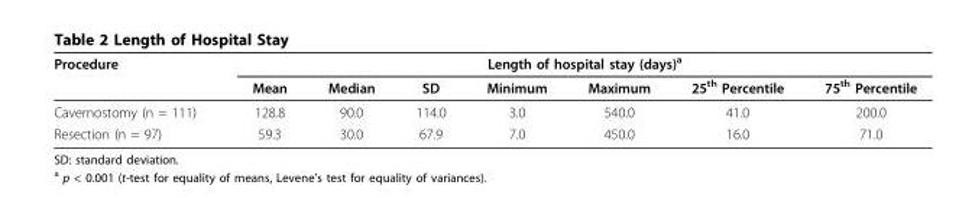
<table><thead><tr><td rowspan="2">Procedure</td><td colspan="7">Length of hospital stay (days)<sup>a</sup></td></tr><tr><td>Mean</td><td>Median</td><td>SD</td><td>Minimum</td><td>Maximum</td><td>25<sup>th</sup> Percentile</td><td>75<sup>th</sup> Percentile</td></tr></thead><tbody><tr><td>Cavernostomy (n = 111)</td><td>128.8</td><td>90.0</td><td>114.0</td><td>3.0</td><td>540.0</td><td>41.0</td><td>200.0</td></tr><tr><td>Resection (n = 97)</td><td>59.3</td><td>30.0</td><td>67.9</td><td>7.0</td><td>450.0</td><td>16.0</td><td>71.0</td></tr></tbody></table>